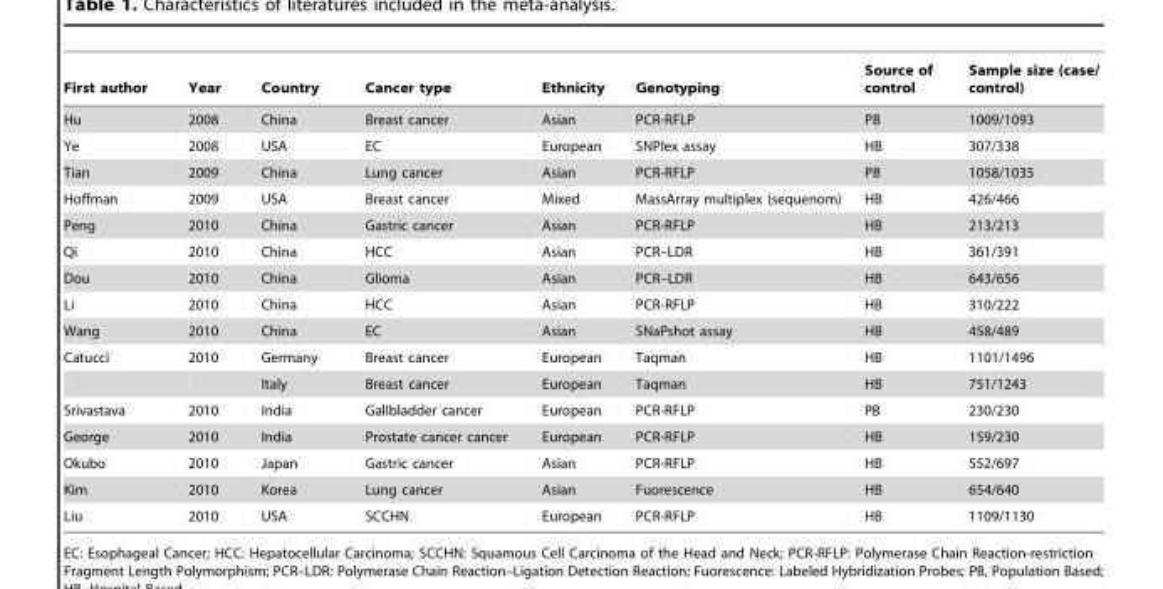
<table><thead><tr><td>First author</td><td>Year</td><td>Country</td><td>Cancer type</td><td>Ethnicity</td><td>Genotyping</td><td>Source of control</td><td>Sample size (case/ control)</td></tr></thead><tbody><tr><td>Hu</td><td>2008</td><td>China</td><td>Breast cancer</td><td>Asian</td><td>PCR-RFLP</td><td>PB</td><td>1009/1093</td></tr><tr><td>Ye</td><td>2008</td><td>USA</td><td>EC</td><td>European</td><td>SNPlex assay</td><td>HB</td><td>307/338</td></tr><tr><td>Tian</td><td>2009</td><td>China</td><td>Lung cancer</td><td>Asian</td><td>PCR-RFLP</td><td>PB</td><td>1058/1035</td></tr><tr><td>Hoffman</td><td>2009</td><td>USA</td><td>Breast cancer</td><td>Mixed</td><td>MassArray multiplex (sequenom)</td><td>HB</td><td>426/466</td></tr><tr><td>Peng</td><td>2010</td><td>China</td><td>Gastric cancer</td><td>Asian</td><td>PCR-RFLP</td><td>HB</td><td>213/213</td></tr><tr><td>Qi</td><td>2010</td><td>China</td><td>HCC</td><td>Asian</td><td>PCR–LDR</td><td>HB</td><td>361/391</td></tr><tr><td>Dou</td><td>2010</td><td>China</td><td>Glioma</td><td>Asian</td><td>PCR–LDR</td><td>HB</td><td>643/656</td></tr><tr><td>Li</td><td>2010</td><td>China</td><td>HCC</td><td>Asian</td><td>PCR-RFLP</td><td>HB</td><td>310/222</td></tr><tr><td>Wang</td><td>2010</td><td>China</td><td>EC</td><td>Asian</td><td>SNaPshot assay</td><td>HB</td><td>458/489</td></tr><tr><td rowspan="2">Catucci</td><td>2010</td><td>Germany</td><td>Breast cancer</td><td>European</td><td>Taqman</td><td>HB</td><td>1101/1496</td></tr><tr><td></td><td>Italy</td><td>Breast cancer</td><td>European</td><td>Taqman</td><td>HB</td><td>751/1243</td></tr><tr><td>Srivastava</td><td>2010</td><td>India</td><td>Gallbladder cancer</td><td>European</td><td>PCR-RFLP</td><td>PB</td><td>230/230</td></tr><tr><td>George</td><td>2010</td><td>India</td><td>Prostate cancer cancer</td><td>European</td><td>PCR-RFLP</td><td>HB</td><td>159/230</td></tr><tr><td>Okubo</td><td>2010</td><td>Japan</td><td>Gastric cancer</td><td>Asian</td><td>PCR-RFLP</td><td>HB</td><td>552/697</td></tr><tr><td>Kim</td><td>2010</td><td>Korea</td><td>Lung cancer</td><td>Asian</td><td>Fuorescence</td><td>HB</td><td>654/640</td></tr><tr><td>Liu</td><td>2010</td><td>USA</td><td>SCCHN</td><td>European</td><td>PCR-RFLP</td><td>HB</td><td>1109/1130</td></tr></tbody></table>